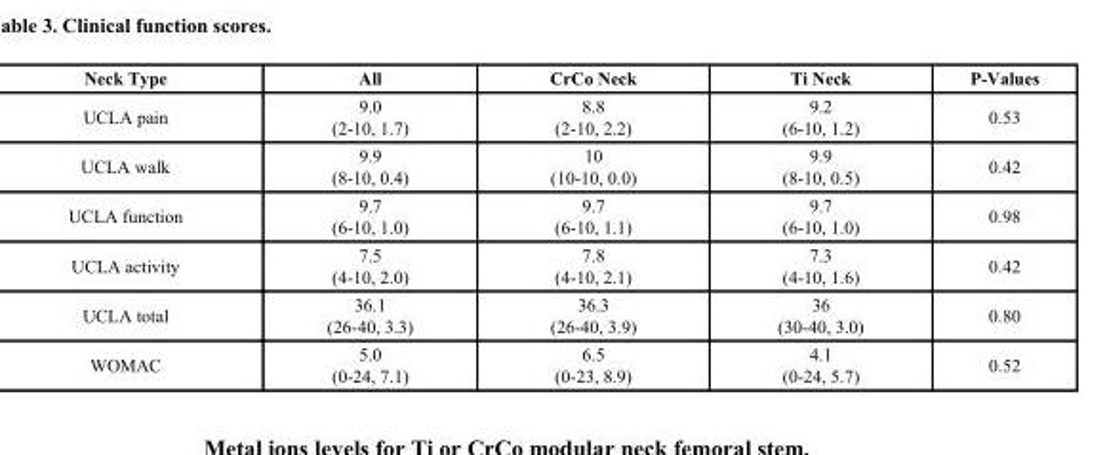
<table><thead><tr><td>Neck Type</td><td>All</td><td>CrCo Neck</td><td>Ti Neck</td><td>P-Values</td></tr></thead><tbody><tr><td>UCLA pain</td><td>9.0 (2-10, 1.7)</td><td>8.8 (2-10, 2.2)</td><td>9.2 (6-10, 1.2)</td><td>0.53</td></tr><tr><td>UCLA walk</td><td>9.9 (8-10, 0.4)</td><td>10 (10-10, 0.0)</td><td>9.9 (8-10, 0.5)</td><td>0.42</td></tr><tr><td>UCLA function</td><td>9.7 (6-10, 1.0)</td><td>9.7 (6-10, 1.1)</td><td>9.7 (6-10, 1.0)</td><td>0.98</td></tr><tr><td>UCLA activity</td><td>7.5 (4-10, 2.0)</td><td>7.8 (4-10, 2.1)</td><td>7.3 (4-10, 1.6)</td><td>0.42</td></tr><tr><td>UCLA total</td><td>36.1 (26-40, 3.3)</td><td>36.3 (26-40, 3.9)</td><td>36 (30-40, 3.0)</td><td>0.80</td></tr><tr><td>WOMAC</td><td>5.0 (0-24, 7.1)</td><td>6.5 (0-23, 8.9)</td><td>4.1 (0-24, 5.7)</td><td>0.52</td></tr></tbody></table>